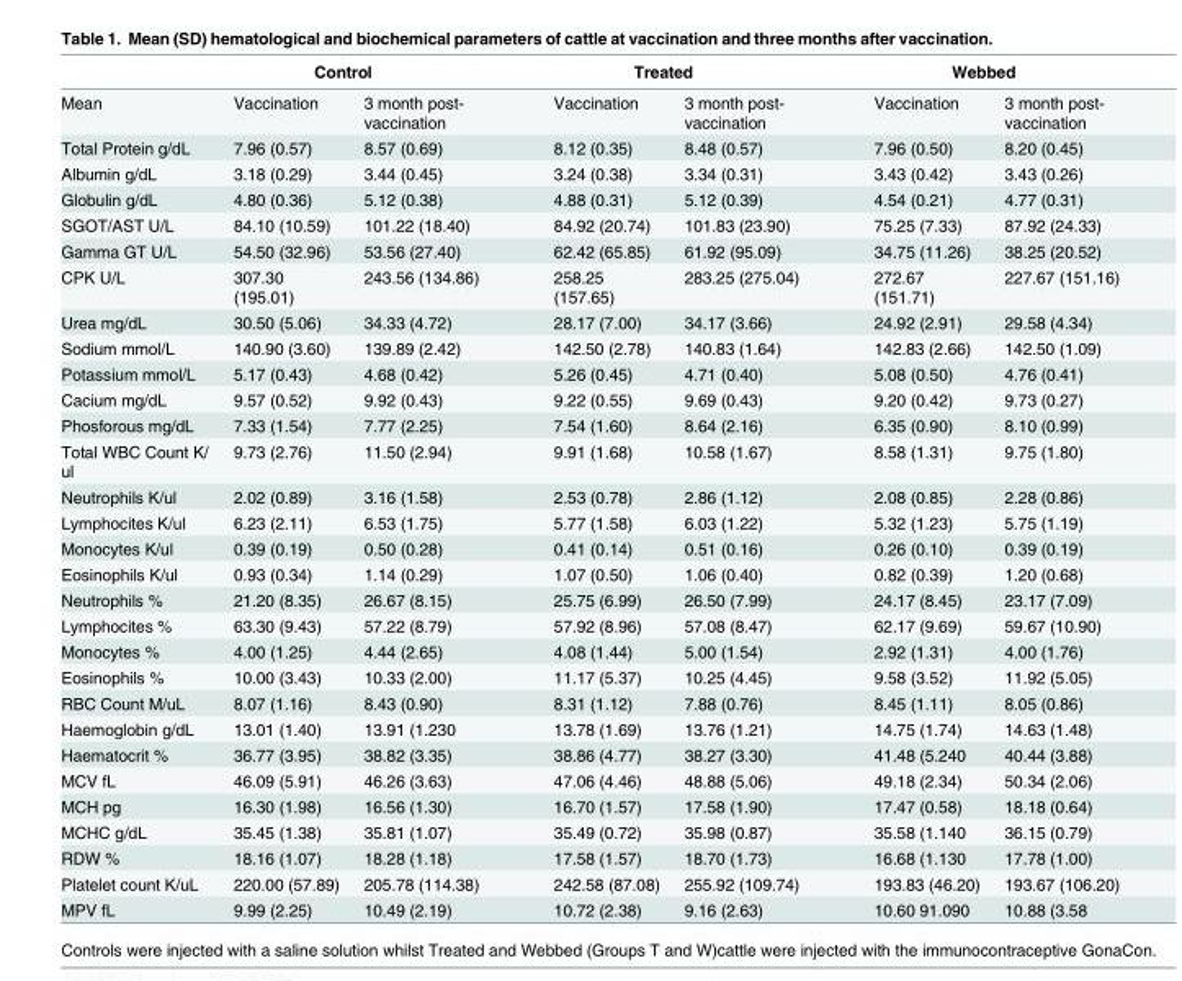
<table><thead><tr><td rowspan="2">Mean</td><td colspan="2">Control</td><td colspan="2">Treated</td><td colspan="2">Webbed</td></tr><tr><td>Vaccination</td><td>3 month post- vaccination</td><td>Vaccination</td><td>3 month post- vaccination</td><td>Vaccination</td><td>3 month post- vaccination</td></tr></thead><tbody><tr><td>Total Protein g/dL</td><td>7.96 (0.57)</td><td>8.57 (0.69)</td><td>8.12 (0.35)</td><td>8.48 (0.57)</td><td>7.96 (0.50)</td><td>8.20 (0.45)</td></tr><tr><td>Albumin g/dL</td><td>3.18 (0.29)</td><td>3.44 (0.45)</td><td>3.24 (0.38)</td><td>3.34 (0.31)</td><td>3.43 (0.42)</td><td>3.43 (0.26)</td></tr><tr><td>Globulin g/dL</td><td>4.80 (0.36)</td><td>5.12 (0.38)</td><td>4.88 (0.31)</td><td>5.12 (0.39)</td><td>4.54 (0.21)</td><td>4.77 (0.31)</td></tr><tr><td>SGOT/AST U/L</td><td>84.10 (10.59)</td><td>101.22 (18.40)</td><td>84.92 (20.74)</td><td>101.83 (23.90)</td><td>75.25 (7.33)</td><td>87.92 (24.33)</td></tr><tr><td>Gamma GT U/L</td><td>54.50 (32.96)</td><td>53.56 (27.40)</td><td>62.42 (65.85)</td><td>61.92 (95.09)</td><td>34.75 (11.26)</td><td>38.25 (20.52)</td></tr><tr><td>CPK U/L</td><td>307.30 (195.01)</td><td>243.56 (134.86)</td><td>258.25 (157.65)</td><td>283.25 (275.04)</td><td>272.67 (151.71)</td><td>227.67 (151.16)</td></tr><tr><td>Urea mg/dL</td><td>30.50 (5.06)</td><td>34.33 (4.72)</td><td>28.17 (7.00)</td><td>34.17 (3.66)</td><td>24.92 (2.91)</td><td>29.58 (4.34)</td></tr><tr><td>Sodium mmol/L</td><td>140.90 (3.60)</td><td>139.89 (2.42)</td><td>142.50 (2.78)</td><td>140.83 (1.64)</td><td>142.83 (2.66)</td><td>142.50 (1.09)</td></tr><tr><td>Potassium mmol/L</td><td>5.17 (0.43)</td><td>4.68 (0.42)</td><td>5.26 (0.45)</td><td>4.71 (0.40)</td><td>5.08 (0.50)</td><td>4.76 (0.41)</td></tr><tr><td>Cacium mg/dL</td><td>9.57 (0.52)</td><td>9.92 (0.43)</td><td>9.22 (0.55)</td><td>9.69 (0.43)</td><td>9.20 (0.42)</td><td>9.73 (0.27)</td></tr><tr><td>Phosforous mg/dL</td><td>7.33 (1.54)</td><td>7.77 (2.25)</td><td>7.54 (1.60)</td><td>8.64 (2.16)</td><td>6.35 (0.90)</td><td>8.10 (0.99)</td></tr><tr><td>Total WBC Count K/ ul</td><td>9.73 (2.76)</td><td>11.50 (2.94)</td><td>9.91 (1.68)</td><td>10.58 (1.67)</td><td>8.58 (1.31)</td><td>9.75 (1.80)</td></tr><tr><td>Neutrophils K/ul</td><td>2.02 (0.89)</td><td>3.16 (1.58)</td><td>2.53 (0.78)</td><td>2.86 (1.12)</td><td>2.08 (0.85)</td><td>2.28 (0.86)</td></tr><tr><td>Lymphocites K/ul</td><td>6.23 (2.11)</td><td>6.53 (1.75)</td><td>5.77 (1.58)</td><td>6.03 (1.22)</td><td>5.32 (1.23)</td><td>5.75 (1.19)</td></tr><tr><td>Monocytes K/ul</td><td>0.39 (0.19)</td><td>0.50 (0.28)</td><td>0.41 (0.14)</td><td>0.51 (0.16)</td><td>0.26 (0.10)</td><td>0.39 (0.19)</td></tr><tr><td>Eosinophils K/ul</td><td>0.93 (0.34)</td><td>1.14 (0.29)</td><td>1.07 (0.50)</td><td>1.06 (0.40)</td><td>0.82 (0.39)</td><td>1.20 (0.68)</td></tr><tr><td>Neutrophils %</td><td>21.20 (8.35)</td><td>26.67 (8.15)</td><td>25.75 (6.99)</td><td>26.50 (7.99)</td><td>24.17 (8.45)</td><td>23.17 (7.09)</td></tr><tr><td>Lymphocites %</td><td>63.30 (9.43)</td><td>57.22 (8.79)</td><td>57.92 (8.96)</td><td>57.08 (8.47)</td><td>62.17 (9.69)</td><td>59.67 (10.90)</td></tr><tr><td>Monocytes %</td><td>4.00 (1.25)</td><td>4.44 (2.65)</td><td>4.08 (1.44)</td><td>5.00 (1.54)</td><td>2.92 (1.31)</td><td>4.00 (1.76)</td></tr><tr><td>Eosinophils %</td><td>10.00 (3.43)</td><td>10.33 (2.00)</td><td>11.17 (5.37)</td><td>10.25 (4.45)</td><td>9.58 (3.52)</td><td>11.92 (5.05)</td></tr><tr><td>RBC Count M/uL</td><td>8.07 (1.16)</td><td>8.43 (0.90)</td><td>8.31 (1.12)</td><td>7.88 (0.76)</td><td>8.45 (1.11)</td><td>8.05 (0.86)</td></tr><tr><td>Haemoglobin g/dL</td><td>13.01 (1.40)</td><td>13.91 (1.230</td><td>13.78 (1.69)</td><td>13.76 (1.21)</td><td>14.75 (1.74)</td><td>14.63 (1.48)</td></tr><tr><td>Haematocrit %</td><td>36.77 (3.95)</td><td>38.82 (3.35)</td><td>38.86 (4.77)</td><td>38.27 (3.30)</td><td>41.48 (5.240</td><td>40.44 (3.88)</td></tr><tr><td>MCV fL</td><td>46.09 (5.91)</td><td>46.26 (3.63)</td><td>47.06 (4.46)</td><td>48.88 (5.06)</td><td>49.18 (2.34)</td><td>50.34 (2.06)</td></tr><tr><td>MCH pg</td><td>16.30 (1.98)</td><td>16.56 (1.30)</td><td>16.70 (1.57)</td><td>17.58 (1.90)</td><td>17.47 (0.58)</td><td>18.18 (0.64)</td></tr><tr><td>MCHC g/dL</td><td>35.45 (1.38)</td><td>35.81 (1.07)</td><td>35.49 (0.72)</td><td>35.98 (0.87)</td><td>35.58 (1.140</td><td>36.15 (0.79)</td></tr><tr><td>RDW %</td><td>18.16 (1.07)</td><td>18.28 (1.18)</td><td>17.58 (1.57)</td><td>18.70 (1.73)</td><td>16.68 (1.130</td><td>17.78 (1.00)</td></tr><tr><td>Platelet count K/uL</td><td>220.00 (57.89)</td><td>205.78 (114.38)</td><td>242.58 (87.08)</td><td>255.92 (109.74)</td><td>193.83 (46.20)</td><td>193.67 (106.20)</td></tr><tr><td>MPV fL</td><td>9.99 (2.25)</td><td>10.49 (2.19)</td><td>10.72 (2.38)</td><td>9.16 (2.63)</td><td>10.60 91.090</td><td>10.88 (3.58</td></tr></tbody></table>